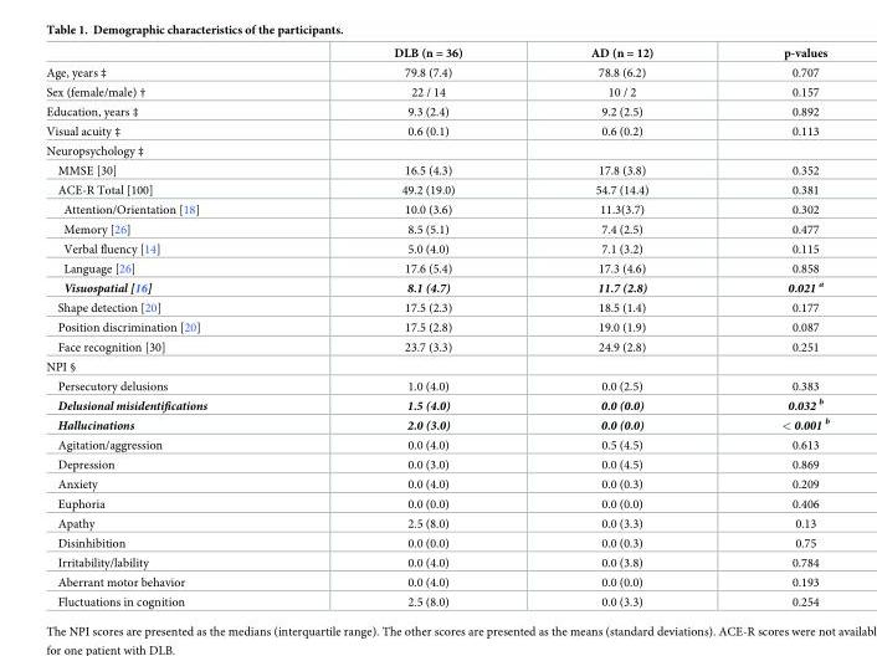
<table><thead><tr><td></td><td>DLB (n = 36)</td><td>AD (n = 12)</td><td>p-values</td></tr></thead><tbody><tr><td>Age, years ‡</td><td>79.8 (7.4)</td><td>78.8 (6.2)</td><td>0.707</td></tr><tr><td>Sex (female/male) †</td><td>22 / 14</td><td>10 / 2</td><td>0.157</td></tr><tr><td>Education, years ‡</td><td>9.3 (2.4)</td><td>9.2 (2.5)</td><td>0.892</td></tr><tr><td>Visual acuity ‡</td><td>0.6 (0.1)</td><td>0.6 (0.2)</td><td>0.113</td></tr><tr><td colspan="4">Neuropsychology ‡</td></tr><tr><td>MMSE [30]</td><td>16.5 (4.3)</td><td>17.8 (3.8)</td><td>0.352</td></tr><tr><td>ACE-R Total [100]</td><td>49.2 (19.0)</td><td>54.7 (14.4)</td><td>0.381</td></tr><tr><td>Attention/Orientation [18]</td><td>10.0 (3.6)</td><td>11.3(3.7)</td><td>0.302</td></tr><tr><td>Memory [26]</td><td>8.5 (5.1)</td><td>7.4 (2.5)</td><td>0.477</td></tr><tr><td>Verbal fluency [14]</td><td>5.0 (4.0)</td><td>7.1 (3.2)</td><td>0.115</td></tr><tr><td>Language [26]</td><td>17.6 (5.4)</td><td>17.3 (4.6)</td><td>0.858</td></tr><tr><td>Visuospatial [16]</td><td>8.1 (4.7)</td><td>11.7 (2.8)</td><td>0.021 <sup>a</sup></td></tr><tr><td>Shape detection [20]</td><td>17.5 (2.3)</td><td>18.5 (1.4)</td><td>0.177</td></tr><tr><td>Position discrimination [20]</td><td>17.5 (2.8)</td><td>19.0 (1.9)</td><td>0.087</td></tr><tr><td>Face recognition [30]</td><td>23.7 (3.3)</td><td>24.9 (2.8)</td><td>0.251</td></tr><tr><td colspan="4">NPI §</td></tr><tr><td>Persecutory delusions</td><td>1.0 (4.0)</td><td>0.0 (2.5)</td><td>0.383</td></tr><tr><td>Delusional misidentifications</td><td>1.5 (4.0)</td><td>0.0 (0.0)</td><td>0.032 <sup>b</sup></td></tr><tr><td>Hallucinations</td><td>2.0 (3.0)</td><td>0.0 (0.0)</td><td>&lt; 0.001 <sup>b</sup></td></tr><tr><td>Agitation/aggression</td><td>0.0 (4.0)</td><td>0.5 (4.5)</td><td>0.613</td></tr><tr><td>Depression</td><td>0.0 (3.0)</td><td>0.0 (4.5)</td><td>0.869</td></tr><tr><td>Anxiety</td><td>0.0 (4.0)</td><td>0.0 (0.3)</td><td>0.209</td></tr><tr><td>Euphoria</td><td>0.0 (0.0)</td><td>0.0 (0.0)</td><td>0.406</td></tr><tr><td>Apathy</td><td>2.5 (8.0)</td><td>0.0 (3.3)</td><td>0.13</td></tr><tr><td>Disinhibition</td><td>0.0 (0.0)</td><td>0.0 (0.3)</td><td>0.75</td></tr><tr><td>Irritability/lability</td><td>0.0 (4.0)</td><td>0.0 (3.8)</td><td>0.784</td></tr><tr><td>Aberrant motor behavior</td><td>0.0 (4.0)</td><td>0.0 (0.0)</td><td>0.193</td></tr><tr><td>Fluctuations in cognition</td><td>2.5 (8.0)</td><td>0.0 (3.3)</td><td>0.254</td></tr></tbody></table>